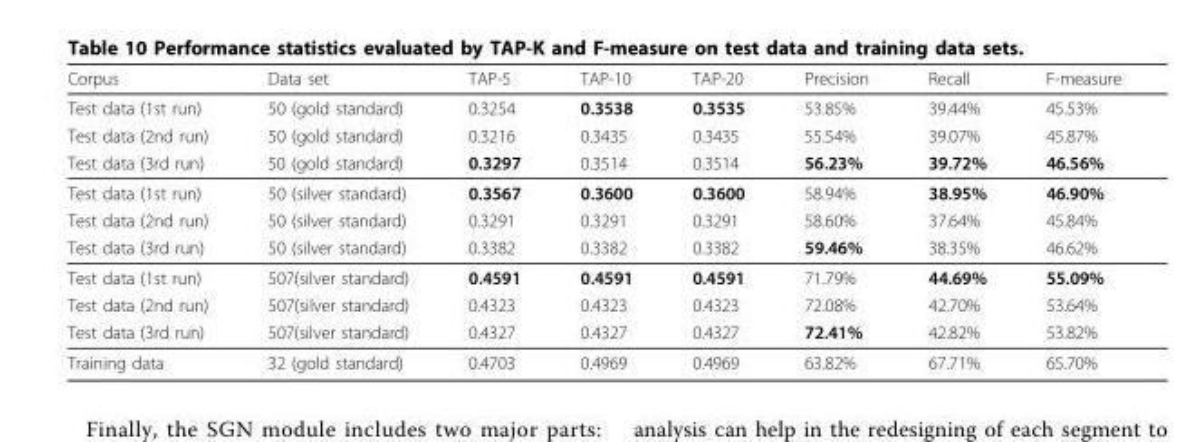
<table><thead><tr><td>Corpus</td><td>Data set</td><td>TAP-5</td><td>TAP-10</td><td>TAP-20</td><td>Precision</td><td>Recall</td><td>F-measure</td></tr></thead><tbody><tr><td>Test data (1st run)</td><td>50 (gold standard)</td><td>0.3254</td><td>0.3538</td><td>0.3535</td><td>53.85%</td><td>39.44%</td><td>45.53%</td></tr><tr><td>Test data (2nd run)</td><td>50 (gold standard)</td><td>0.3216</td><td>0.3435</td><td>0.3435</td><td>55.54%</td><td>39.07%</td><td>45.87%</td></tr><tr><td>Test data (3rd run)</td><td>50 (gold standard)</td><td>0.3297</td><td>0.3514</td><td>0.3514</td><td>56.23%</td><td>39.72%</td><td>46.56%</td></tr><tr><td>Test data (1st run)</td><td>50 (silver standard)</td><td>0.3567</td><td>0.3600</td><td>0.3600</td><td>58.94%</td><td>38.95%</td><td>46.90%</td></tr><tr><td>Test data (2nd run)</td><td>50 (silver standard)</td><td>0.3291</td><td>0.3291</td><td>0.3291</td><td>58.60%</td><td>37.64%</td><td>45.84%</td></tr><tr><td>Test data (3rd run)</td><td>50 (silver standard)</td><td>0.3382</td><td>0.3382</td><td>0.3382</td><td>59.46%</td><td>38.35%</td><td>46.62%</td></tr><tr><td>Test data (1st run)</td><td>507(silver standard)</td><td>0.4591</td><td>0.4591</td><td>0.4591</td><td>71.79%</td><td>44.69%</td><td>55.09%</td></tr><tr><td>Test data (2nd run)</td><td>507(silver standard)</td><td>0.4323</td><td>0.4323</td><td>0.4323</td><td>72.08%</td><td>42.70%</td><td>53.64%</td></tr><tr><td>Test data (3rd run)</td><td>507(silver standard)</td><td>0.4327</td><td>0.4327</td><td>0.4327</td><td>72.41%</td><td>42.82%</td><td>53.82%</td></tr><tr><td>Training data</td><td>32 (gold standard)</td><td>0.4703</td><td>0.4969</td><td>0.4969</td><td>63.82%</td><td>67.71%</td><td>65.70%</td></tr></tbody></table>